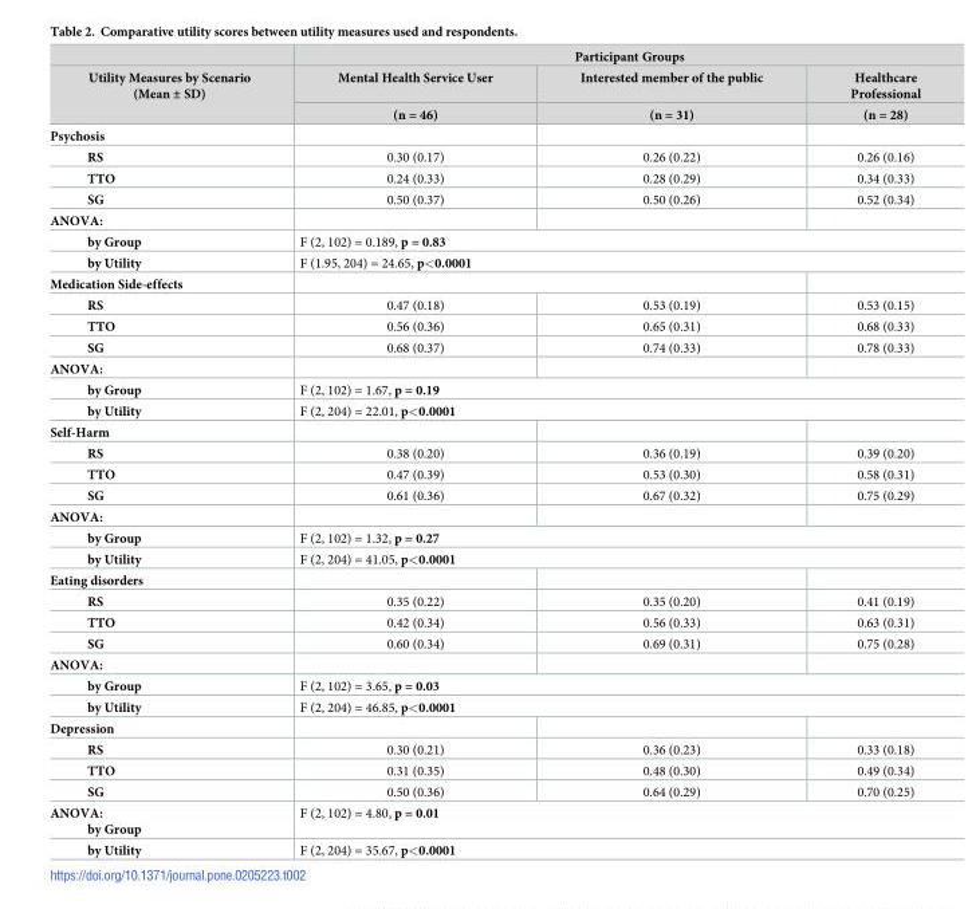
<table><thead><tr><td rowspan="3">Utility Measures by Scenario (Mean ± SD)</td><td colspan="3">Participant Groups</td></tr><tr><td rowspan="2">Mental Health Service User (n = 46)</td><td rowspan="2">Interested member of the public (n = 31)</td><td rowspan="2">Healthcare Professional (n = 28)</td></tr><tr></tr></thead><tbody><tr><td colspan="4">Psychosis</td></tr><tr><td>RS</td><td>0.30 (0.17)</td><td>0.26 (0.22)</td><td>0.26 (0.16)</td></tr><tr><td>TTO</td><td>0.24 (0.33)</td><td>0.28 (0.29)</td><td>0.34 (0.33)</td></tr><tr><td>SG</td><td>0.50 (0.37)</td><td>0.50 (0.26)</td><td>0.52 (0.34)</td></tr><tr><td colspan="4">ANOVA:</td></tr><tr><td>by Group</td><td colspan="3">F (2, 102) = 0.189, p = 0.83</td></tr><tr><td>by Utility</td><td colspan="3">F (1.95, 204) = 24.65, p&lt;0.0001</td></tr><tr><td colspan="4">Medication Side-effects</td></tr><tr><td>RS</td><td>0.47 (0.18)</td><td>0.53 (0.19)</td><td>0.53 (0.15)</td></tr><tr><td>TTO</td><td>0.56 (0.36)</td><td>0.65 (0.31)</td><td>0.68 (0.33)</td></tr><tr><td>SG</td><td>0.68 (0.37)</td><td>0.74 (0.33)</td><td>0.78 (0.33)</td></tr><tr><td colspan="4">ANOVA:</td></tr><tr><td>by Group</td><td colspan="3">F (2, 102) = 1.67, p = 0.19</td></tr><tr><td>by Utility</td><td colspan="3">F (2, 204) = 22.01, p&lt;0.0001</td></tr><tr><td colspan="4">Self-Harm</td></tr><tr><td>RS</td><td>0.38 (0.20)</td><td>0.36 (0.19)</td><td>0.39 (0.20)</td></tr><tr><td>TTO</td><td>0.47 (0.39)</td><td>0.53 (0.30)</td><td>0.58 (0.31)</td></tr><tr><td>SG</td><td>0.61 (0.36)</td><td>0.67 (0.32)</td><td>0.75 (0.29)</td></tr><tr><td colspan="4">ANOVA:</td></tr><tr><td>by Group</td><td colspan="3">F (2, 102) = 1.32, p = 0.27</td></tr><tr><td>by Utility</td><td colspan="3">F (2, 204) = 41.05, p&lt;0.0001</td></tr><tr><td colspan="4">Eating disorders</td></tr><tr><td>RS</td><td>0.35 (0.22)</td><td>0.35 (0.20)</td><td>0.41 (0.19)</td></tr><tr><td>TTO</td><td>0.42 (0.34)</td><td>0.56 (0.33)</td><td>0.63 (0.31)</td></tr><tr><td>SG</td><td>0.60 (0.34)</td><td>0.69 (0.31)</td><td>0.75 (0.28)</td></tr><tr><td colspan="4">ANOVA:</td></tr><tr><td>by Group</td><td colspan="3">F (2, 102) = 3.65, p = 0.03</td></tr><tr><td>by Utility</td><td colspan="3">F (2, 204) = 46.85, p&lt;0.0001</td></tr><tr><td colspan="4">Depression</td></tr><tr><td>RS</td><td>0.30 (0.21)</td><td>0.36 (0.23)</td><td>0.33 (0.18)</td></tr><tr><td>TTO</td><td>0.31 (0.35)</td><td>0.48 (0.30)</td><td>0.49 (0.34)</td></tr><tr><td>SG</td><td>0.50 (0.36)</td><td>0.64 (0.29)</td><td>0.70 (0.25)</td></tr><tr><td>ANOVA: by Group</td><td colspan="3">F (2, 102) = 4.80, p = 0.01</td></tr><tr><td>by Utility</td><td colspan="3">F (2, 204) = 35.67, p&lt;0.0001</td></tr></tbody></table>